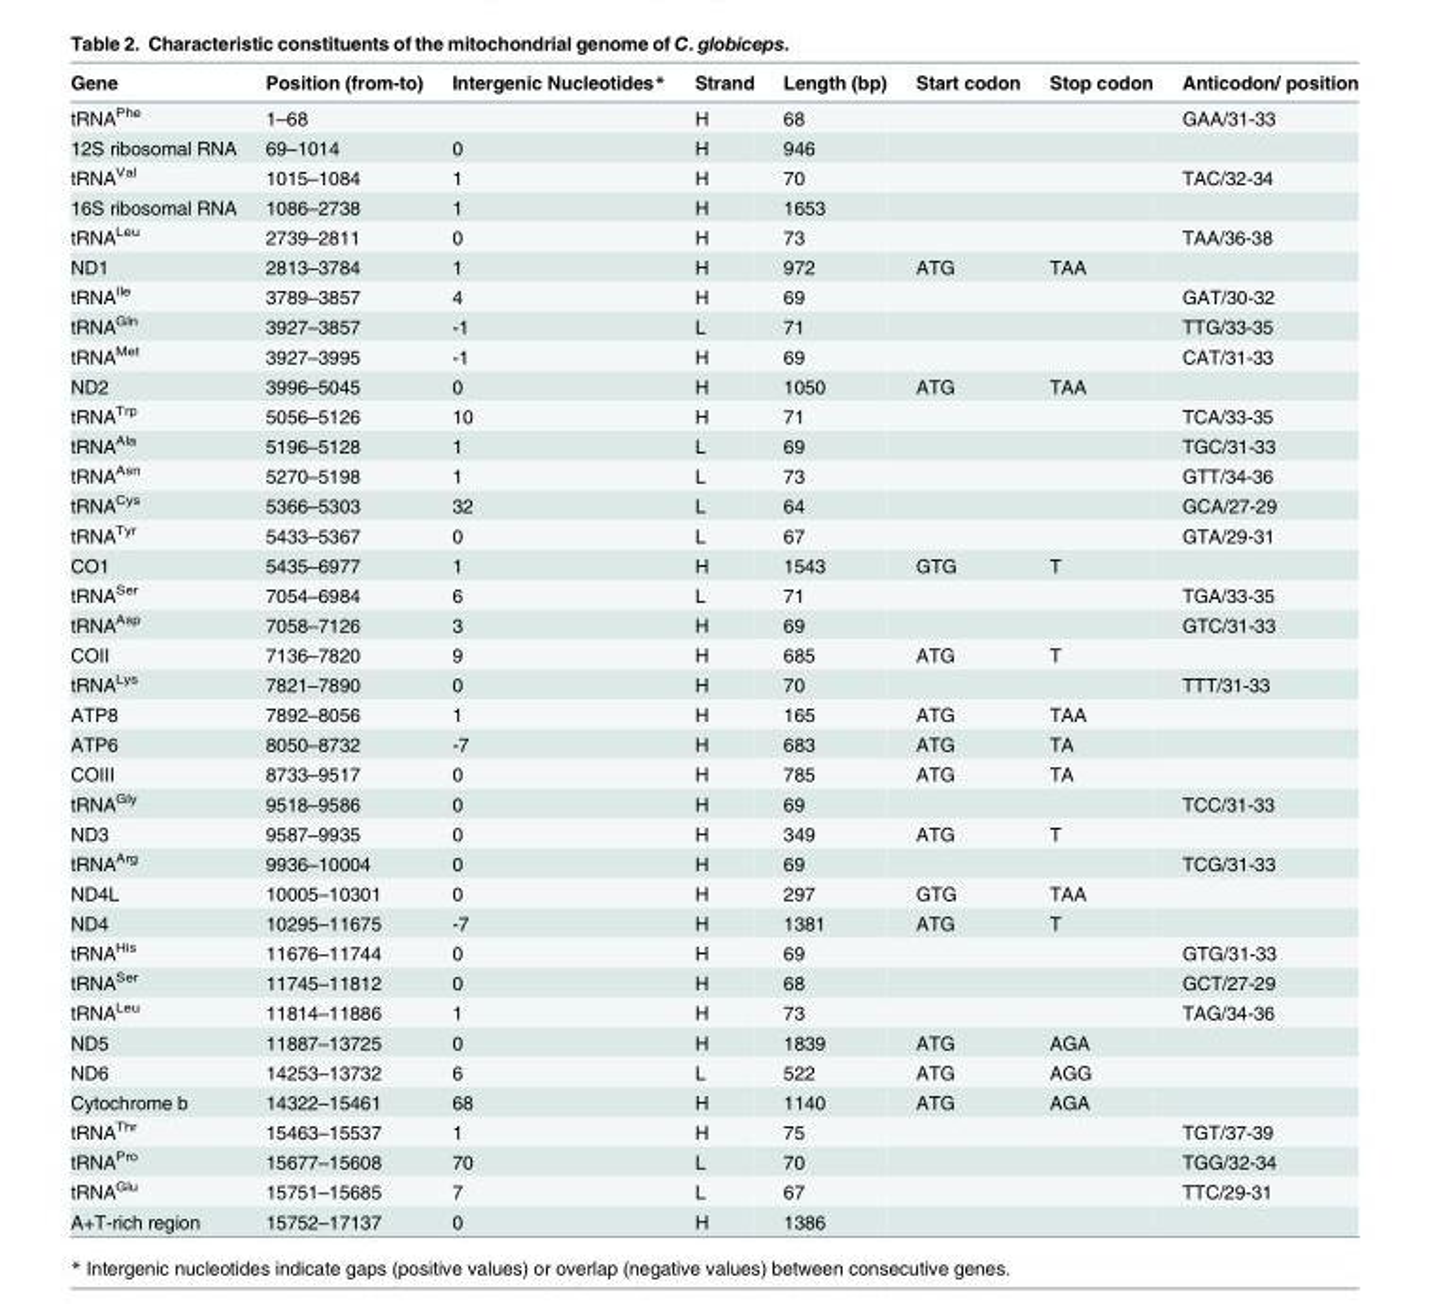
<table><thead><tr><td>Gene</td><td>Position (from-to)</td><td>Intergenic Nucleotides*</td><td>Strand</td><td>Length (bp)</td><td>Start codon</td><td>Stop codon</td><td>Anticodon/ position</td></tr></thead><tbody><tr><td>tRNA<sup>Phe</sup></td><td>1–68</td><td></td><td>H</td><td>68</td><td></td><td></td><td>GAA/31-33</td></tr><tr><td>12S ribosomal RNA</td><td>69–1014</td><td>0</td><td>H</td><td>946</td><td></td><td></td><td></td></tr><tr><td>tRNA<sup>Val</sup></td><td>1015–1084</td><td>1</td><td>H</td><td>70</td><td></td><td></td><td>TAC/32-34</td></tr><tr><td>16S ribosomal RNA</td><td>1086–2738</td><td>1</td><td>H</td><td>1653</td><td></td><td></td><td></td></tr><tr><td>tRNA<sup>Leu</sup></td><td>2739–2811</td><td>0</td><td>H</td><td>73</td><td></td><td></td><td>TAA/36-38</td></tr><tr><td>ND1</td><td>2813–3784</td><td>1</td><td>H</td><td>972</td><td>ATG</td><td>TAA</td><td></td></tr><tr><td>tRNA<sup>Ile</sup></td><td>3789–3857</td><td>4</td><td>H</td><td>69</td><td></td><td></td><td>GAT/30-32</td></tr><tr><td>tRNA<sup>Gln</sup></td><td>3927–3857</td><td>-1</td><td>L</td><td>71</td><td></td><td></td><td>TTG/33-35</td></tr><tr><td>tRNA<sup>Met</sup></td><td>3927–3995</td><td>-1</td><td>H</td><td>69</td><td></td><td></td><td>CAT/31-33</td></tr><tr><td>ND2</td><td>3996–5045</td><td>0</td><td>H</td><td>1050</td><td>ATG</td><td>TAA</td><td></td></tr><tr><td>tRNA<sup>Trp</sup></td><td>5056–5126</td><td>10</td><td>H</td><td>71</td><td></td><td></td><td>TCA/33-35</td></tr><tr><td>tRNA<sup>Ala</sup></td><td>5196–5128</td><td>1</td><td>L</td><td>69</td><td></td><td></td><td>TGC/31-33</td></tr><tr><td>tRNA<sup>Asn</sup></td><td>5270–5198</td><td>1</td><td>L</td><td>73</td><td></td><td></td><td>GTT/34-36</td></tr><tr><td>tRNA<sup>Cys</sup></td><td>5366–5303</td><td>32</td><td>L</td><td>64</td><td></td><td></td><td>GCA/27-29</td></tr><tr><td>tRNA<sup>Tyr</sup></td><td>5433–5367</td><td>0</td><td>L</td><td>67</td><td></td><td></td><td>GTA/29-31</td></tr><tr><td>CO1</td><td>5435–6977</td><td>1</td><td>H</td><td>1543</td><td>GTG</td><td>T</td><td></td></tr><tr><td>tRNA<sup>Ser</sup></td><td>7054–6984</td><td>6</td><td>L</td><td>71</td><td></td><td></td><td>TGA/33-35</td></tr><tr><td>tRNA<sup>Asp</sup></td><td>7058–7126</td><td>3</td><td>H</td><td>69</td><td></td><td></td><td>GTC/31-33</td></tr><tr><td>COII</td><td>7136–7820</td><td>9</td><td>H</td><td>685</td><td>ATG</td><td>T</td><td></td></tr><tr><td>tRNA<sup>Lys</sup></td><td>7821–7890</td><td>0</td><td>H</td><td>70</td><td></td><td></td><td>TTT/31-33</td></tr><tr><td>ATP8</td><td>7892–8056</td><td>1</td><td>H</td><td>165</td><td>ATG</td><td>TAA</td><td></td></tr><tr><td>ATP6</td><td>8050–8732</td><td>-7</td><td>H</td><td>683</td><td>ATG</td><td>TA</td><td></td></tr><tr><td>COIII</td><td>8733–9517</td><td>0</td><td>H</td><td>785</td><td>ATG</td><td>TA</td><td></td></tr><tr><td>tRNA<sup>Gly</sup></td><td>9518–9586</td><td>0</td><td>H</td><td>69</td><td></td><td></td><td>TCC/31-33</td></tr><tr><td>ND3</td><td>9587–9935</td><td>0</td><td>H</td><td>349</td><td>ATG</td><td>T</td><td></td></tr><tr><td>tRNA<sup>Arg</sup></td><td>9936–10004</td><td>0</td><td>H</td><td>69</td><td></td><td></td><td>TCG/31-33</td></tr><tr><td>ND4L</td><td>10005–10301</td><td>0</td><td>H</td><td>297</td><td>GTG</td><td>TAA</td><td></td></tr><tr><td>ND4</td><td>10295–11675</td><td>-7</td><td>H</td><td>1381</td><td>ATG</td><td>T</td><td></td></tr><tr><td>tRNA<sup>His</sup></td><td>11676–11744</td><td>0</td><td>H</td><td>69</td><td></td><td></td><td>GTG/31-33</td></tr><tr><td>tRNA<sup>Ser</sup></td><td>11745–11812</td><td>0</td><td>H</td><td>68</td><td></td><td></td><td>GCT/27-29</td></tr><tr><td>tRNA<sup>Leu</sup></td><td>11814–11886</td><td>1</td><td>H</td><td>73</td><td></td><td></td><td>TAG/34-36</td></tr><tr><td>ND5</td><td>11887–13725</td><td>0</td><td>H</td><td>1839</td><td>ATG</td><td>AGA</td><td></td></tr><tr><td>ND6</td><td>14253–13732</td><td>6</td><td>L</td><td>522</td><td>ATG</td><td>AGG</td><td></td></tr><tr><td>Cytochrome b</td><td>14322–15461</td><td>68</td><td>H</td><td>1140</td><td>ATG</td><td>AGA</td><td></td></tr><tr><td>tRNA<sup>Thr</sup></td><td>15463–15537</td><td>1</td><td>H</td><td>75</td><td></td><td></td><td>TGT/37-39</td></tr><tr><td>tRNA<sup>Pro</sup></td><td>15677–15608</td><td>70</td><td>L</td><td>70</td><td></td><td></td><td>TGG/32-34</td></tr><tr><td>tRNA<sup>Glu</sup></td><td>15751–15685</td><td>7</td><td>L</td><td>67</td><td></td><td></td><td>TTC/29-31</td></tr><tr><td>A+T-rich region</td><td>15752–17137</td><td>0</td><td>H</td><td>1386</td><td></td><td></td><td></td></tr></tbody></table>